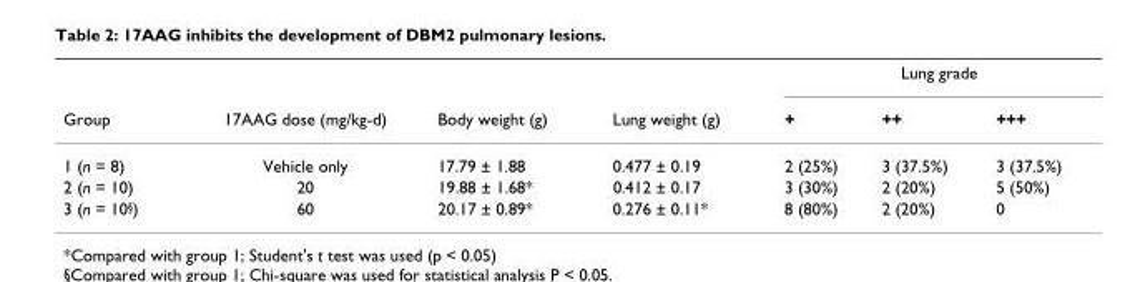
<table><thead><tr><td rowspan="2">Group</td><td rowspan="2">17AAG dose (mg/kg-d)</td><td rowspan="2">Body weight (g)</td><td rowspan="2">Lung weight (g)</td><td colspan="3">Lung grade</td></tr><tr><td>+</td><td>++</td><td>+++</td></tr></thead><tbody><tr><td>1 (n = 8)</td><td>Vehicle only</td><td>17.79 ± 1.88</td><td>0.477 ± 0.19</td><td>2 (25%)</td><td>3 (37.5%)</td><td>3 (37.5%)</td></tr><tr><td>2 (n = 10)</td><td>20</td><td>19.88 ± 1.68*</td><td>0.412 ± 0.17</td><td>3 (30%)</td><td>2 (20%)</td><td>5 (50%)</td></tr><tr><td>3 (n = 10<sup>§</sup>)</td><td>60</td><td>20.17 ± 0.89*</td><td>0.276 ± 0.11*</td><td>8 (80%)</td><td>2 (20%)</td><td>0</td></tr></tbody></table>